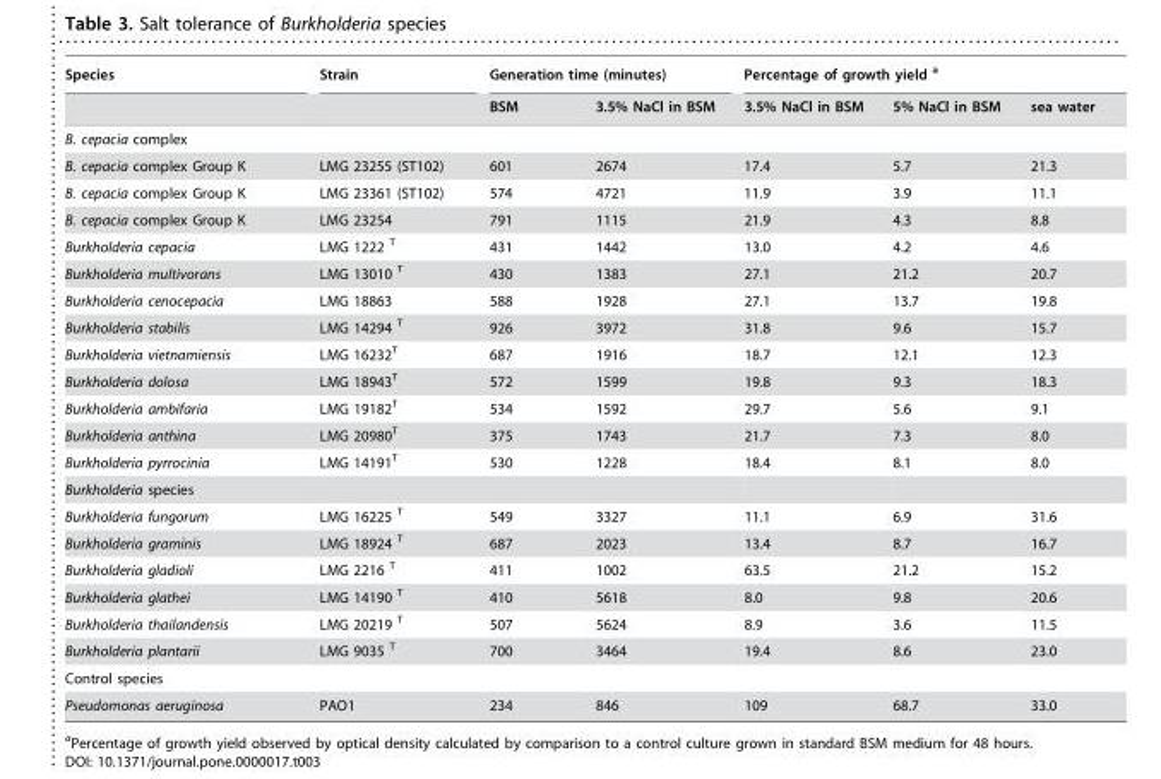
<table><thead><tr><td rowspan="2">Species</td><td rowspan="2">Strain</td><td colspan="2">Generation time (minutes)</td><td colspan="3">Percentage of growth yield a</td></tr><tr><td>BSM</td><td>3.5% NaCl in BSM</td><td>3.5% NaCl in BSM</td><td>5% NaCl in BSM</td><td>sea water</td></tr></thead><tbody><tr><td colspan="7">B. cepacia complex</td></tr><tr><td>B. cepacia complex Group K</td><td>LMG 23255 (ST102)</td><td>601</td><td>2674</td><td>17.4</td><td>5.7</td><td>21.3</td></tr><tr><td>B. cepacia complex Group K</td><td>LMG 23361 (ST102)</td><td>574</td><td>4721</td><td>11.9</td><td>3.9</td><td>11.1</td></tr><tr><td>B. cepacia complex Group K</td><td>LMG 23254</td><td>791</td><td>1115</td><td>21.9</td><td>4.3</td><td>8.8</td></tr><tr><td>Burkholderia cepacia</td><td>LMG 1222 <sup>T</sup></td><td>431</td><td>1442</td><td>13.0</td><td>4.2</td><td>4.6</td></tr><tr><td>Burkholderia multivorans</td><td>LMG 13010 <sup>T</sup></td><td>430</td><td>1383</td><td>27.1</td><td>21.2</td><td>20.7</td></tr><tr><td>Burkholderia cenocepacia</td><td>LMG 18863</td><td>588</td><td>1928</td><td>27.1</td><td>13.7</td><td>19.8</td></tr><tr><td>Burkholderia stabilis</td><td>LMG 14294 <sup>T</sup></td><td>926</td><td>3972</td><td>31.8</td><td>9.6</td><td>15.7</td></tr><tr><td>Burkholderia vietnamiensis</td><td>LMG 16232<sup>T</sup></td><td>687</td><td>1916</td><td>18.7</td><td>12.1</td><td>12.3</td></tr><tr><td>Burkholderia dolosa</td><td>LMG 18943<sup>T</sup></td><td>572</td><td>1599</td><td>19.8</td><td>9.3</td><td>18.3</td></tr><tr><td>Burkholderia ambifaria</td><td>LMG 19182<sup>T</sup></td><td>534</td><td>1592</td><td>29.7</td><td>5.6</td><td>9.1</td></tr><tr><td>Burkholderia anthina</td><td>LMG 20980<sup>T</sup></td><td>375</td><td>1743</td><td>21.7</td><td>7.3</td><td>8.0</td></tr><tr><td>Burkholderia pyrrocinia</td><td>LMG 14191<sup>T</sup></td><td>530</td><td>1228</td><td>18.4</td><td>8.1</td><td>8.0</td></tr><tr><td colspan="7">Burkholderia species</td></tr><tr><td>Burkholderia fungorum</td><td>LMG 16225 <sup>T</sup></td><td>549</td><td>3327</td><td>11.1</td><td>6.9</td><td>31.6</td></tr><tr><td>Burkholderia graminis</td><td>LMG 18924 <sup>T</sup></td><td>687</td><td>2023</td><td>13.4</td><td>8.7</td><td>16.7</td></tr><tr><td>Burkholderia gladioli</td><td>LMG 2216 <sup>T</sup></td><td>411</td><td>1002</td><td>63.5</td><td>21.2</td><td>15.2</td></tr><tr><td>Burkholderia glathei</td><td>LMG 14190 <sup>T</sup></td><td>410</td><td>5618</td><td>8.0</td><td>9.8</td><td>20.6</td></tr><tr><td>Burkholderia thailandensis</td><td>LMG 20219 <sup>T</sup></td><td>507</td><td>5624</td><td>8.9</td><td>3.6</td><td>11.5</td></tr><tr><td>Burkholderia plantarii</td><td>LMG 9035 <sup>T</sup></td><td>700</td><td>3464</td><td>19.4</td><td>8.6</td><td>23.0</td></tr><tr><td colspan="7">Control species</td></tr><tr><td>Pseudomonas aeruginosa</td><td>PAO1</td><td>234</td><td>846</td><td>109</td><td>68.7</td><td>33.0</td></tr></tbody></table>